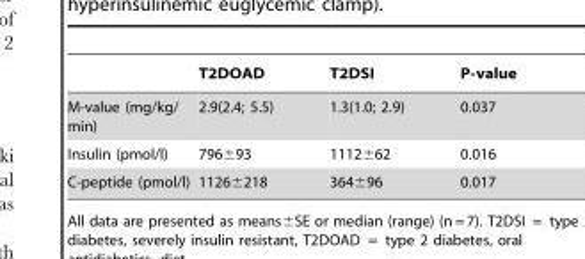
<table><thead><tr><td></td><td>T2DOAD</td><td>T2DSI</td><td>P-value</td></tr></thead><tbody><tr><td>M-value (mg/kg/ min)</td><td>2.9(2.4; 5.5)</td><td>1.3(1.0; 2.9)</td><td>0.037</td></tr><tr><td>Insulin (pmol/l)</td><td>796±93</td><td>1112±62</td><td>0.016</td></tr><tr><td>C-peptide (pmol/l)</td><td>1126±218</td><td>364±96</td><td>0.017</td></tr></tbody></table>